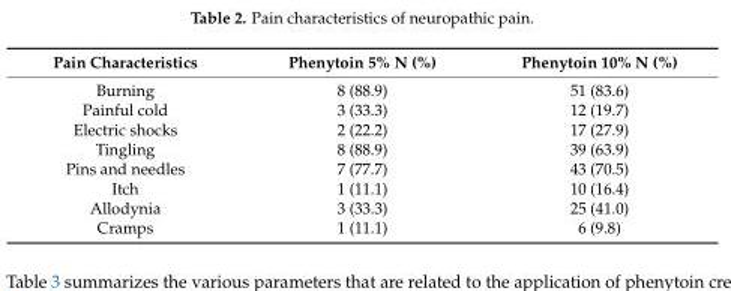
<table><thead><tr><td>Pain Characteristics</td><td>Phenytoin 5% N (%)</td><td>Phenytoin 10% N (%)</td></tr></thead><tbody><tr><td>Burning</td><td>8 (88.9)</td><td>51 (83.6)</td></tr><tr><td>Painful cold</td><td>3 (33.3)</td><td>12 (19.7)</td></tr><tr><td>Electric shocks</td><td>2 (22.2)</td><td>17 (27.9)</td></tr><tr><td>Tingling</td><td>8 (88.9)</td><td>39 (63.9)</td></tr><tr><td>Pins and needles</td><td>7 (77.7)</td><td>43 (70.5)</td></tr><tr><td>Itch</td><td>1 (11.1)</td><td>10 (16.4)</td></tr><tr><td>Allodynia</td><td>3 (33.3)</td><td>25 (41.0)</td></tr><tr><td>Cramps</td><td>1 (11.1)</td><td>6 (9.8)</td></tr></tbody></table>